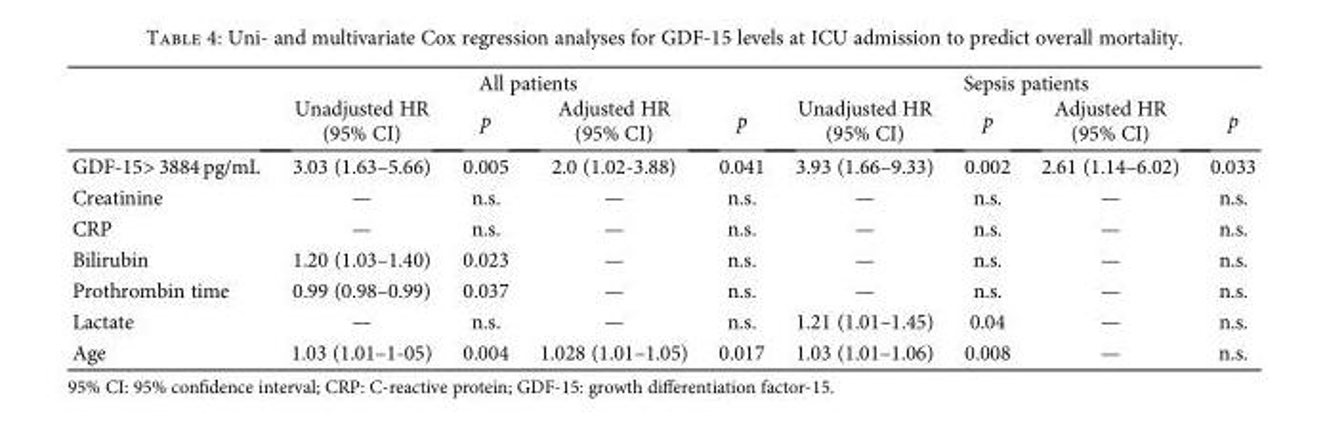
<table><thead><tr><td rowspan="2"></td><td colspan="4">All patients</td><td colspan="4">Sepsis patients</td></tr><tr><td>Unadjusted HR (95% CI)</td><td>p</td><td>Adjusted HR (95% CI)</td><td>p</td><td>Unadjusted HR (95% CI)</td><td>p</td><td>Adjusted HR (95% CI)</td><td>p</td></tr></thead><tbody><tr><td>GDF-15&gt; 3884 pg/mL</td><td>3.03 (1.63–5.66)</td><td>0.005</td><td>2.0 (1.02-3.88)</td><td>0.041</td><td>3.93 (1.66–9.33)</td><td>0.002</td><td>2.61 (1.14–6.02)</td><td>0.033</td></tr><tr><td>Creatinine</td><td>—</td><td>n.s.</td><td>—</td><td>n.s.</td><td>—</td><td>n.s.</td><td>—</td><td>n.s.</td></tr><tr><td>CRP</td><td>—</td><td>n.s.</td><td>—</td><td>n.s.</td><td>—</td><td>n.s.</td><td>—</td><td>n.s.</td></tr><tr><td>Bilirubin</td><td>1.20 (1.03–1.40)</td><td>0.023</td><td>—</td><td>n.s.</td><td>—</td><td>n.s.</td><td>—</td><td>n.s.</td></tr><tr><td>Prothrombin time</td><td>0.99 (0.98–0.99)</td><td>0.037</td><td>—</td><td>n.s.</td><td>—</td><td>n.s.</td><td>—</td><td>n.s.</td></tr><tr><td>Lactate</td><td>—</td><td>n.s.</td><td>—</td><td>n.s.</td><td>1.21 (1.01–1.45)</td><td>0.04</td><td>—</td><td>n.s.</td></tr><tr><td>Age</td><td>1.03 (1.01–1-05)</td><td>0.004</td><td>1.028 (1.01–1.05)</td><td>0.017</td><td>1.03 (1.01–1.06)</td><td>0.008</td><td>—</td><td>n.s.</td></tr></tbody></table>